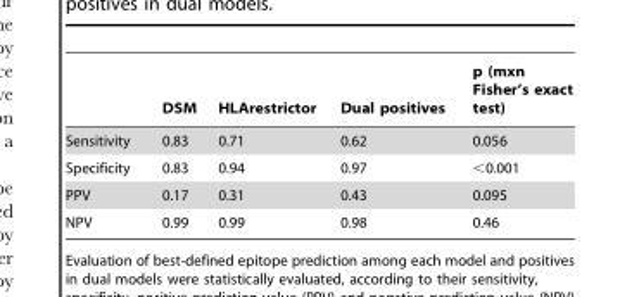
<table><thead><tr><td></td><td>DSM</td><td>HLArestrictor</td><td>Dual positives</td><td>p (mxn Fisher’s exact test)</td></tr></thead><tbody><tr><td>Sensitivity</td><td>0.83</td><td>0.71</td><td>0.62</td><td>0.056</td></tr><tr><td>Specificity</td><td>0.83</td><td>0.94</td><td>0.97</td><td>&lt;0.001</td></tr><tr><td>PPV</td><td>0.17</td><td>0.31</td><td>0.43</td><td>0.095</td></tr><tr><td>NPV</td><td>0.99</td><td>0.99</td><td>0.98</td><td>0.46</td></tr></tbody></table>